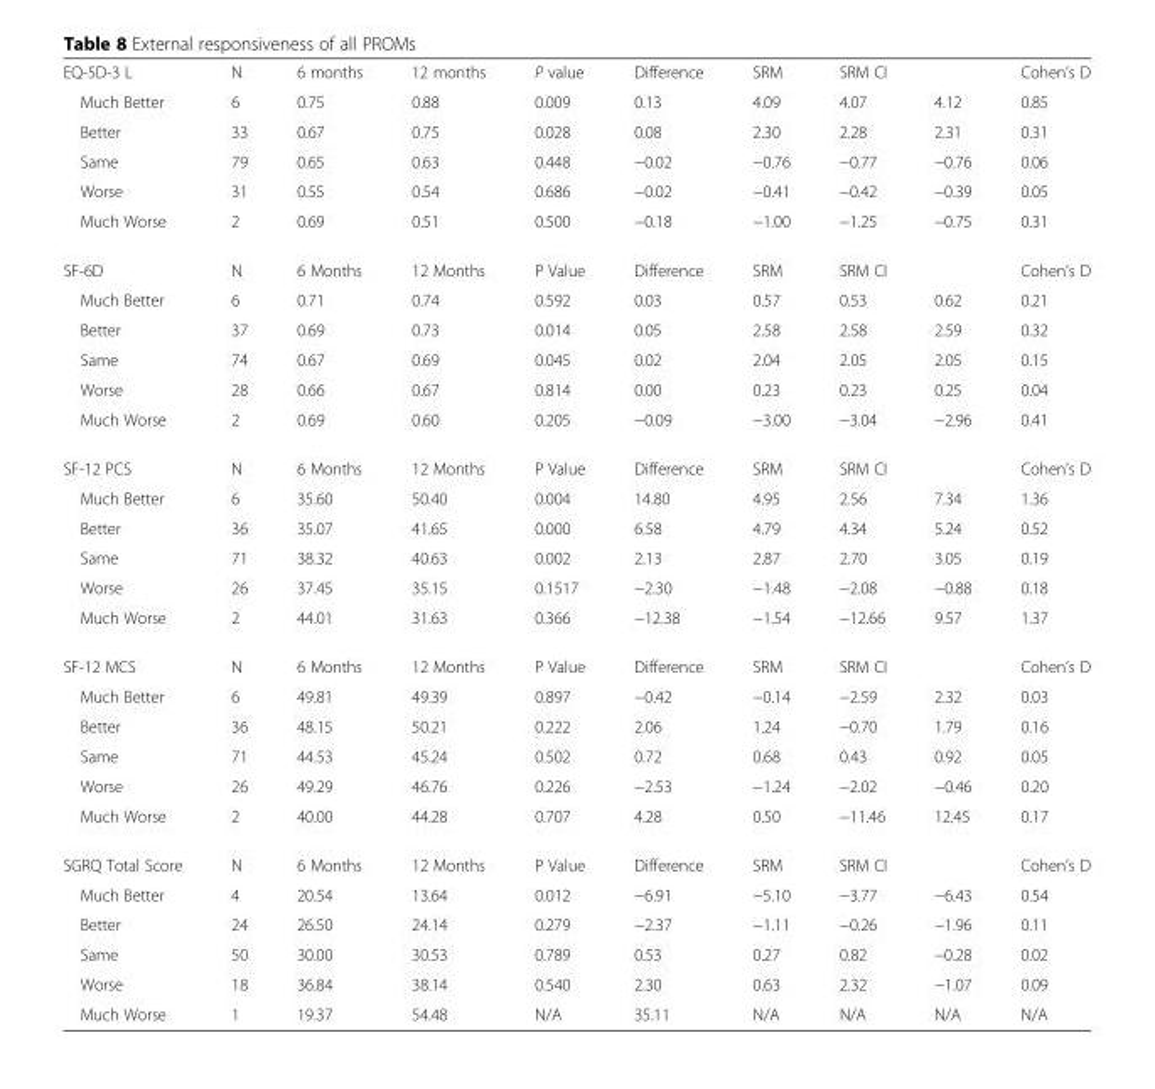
<table><tbody><tr><td>EQ-5D-3 L</td><td>N</td><td>6 months</td><td>12 months</td><td>P value</td><td>Difference</td><td>SRM</td><td colspan="2">SRM CI</td><td>Cohen’s D</td></tr><tr><td>Much Better</td><td>6</td><td>0.75</td><td>0.88</td><td>0.009</td><td>0.13</td><td>4.09</td><td>4.07</td><td>4.12</td><td>0.85</td></tr><tr><td>Better</td><td>33</td><td>0.67</td><td>0.75</td><td>0.028</td><td>0.08</td><td>2.30</td><td>2.28</td><td>2.31</td><td>0.31</td></tr><tr><td>Same</td><td>79</td><td>0.65</td><td>0.63</td><td>0.448</td><td>−0.02</td><td>−0.76</td><td>−0.77</td><td>−0.76</td><td>0.06</td></tr><tr><td>Worse</td><td>31</td><td>0.55</td><td>0.54</td><td>0.686</td><td>−0.02</td><td>−0.41</td><td>−0.42</td><td>−0.39</td><td>0.05</td></tr><tr><td>Much Worse</td><td>2</td><td>0.69</td><td>0.51</td><td>0.500</td><td>−0.18</td><td>−1.00</td><td>−1.25</td><td>−0.75</td><td>0.31</td></tr><tr><td>SF-6D</td><td>N</td><td>6 Months</td><td>12 Months</td><td>P Value</td><td>Difference</td><td>SRM</td><td colspan="2">SRM CI</td><td>Cohen’s D</td></tr><tr><td>Much Better</td><td>6</td><td>0.71</td><td>0.74</td><td>0.592</td><td>0.03</td><td>0.57</td><td>0.53</td><td>0.62</td><td>0.21</td></tr><tr><td>Better</td><td>37</td><td>0.69</td><td>0.73</td><td>0.014</td><td>0.05</td><td>2.58</td><td>2.58</td><td>2.59</td><td>0.32</td></tr><tr><td>Same</td><td>74</td><td>0.67</td><td>0.69</td><td>0.045</td><td>0.02</td><td>2.04</td><td>2.05</td><td>2.05</td><td>0.15</td></tr><tr><td>Worse</td><td>28</td><td>0.66</td><td>0.67</td><td>0.814</td><td>0.00</td><td>0.23</td><td>0.23</td><td>0.25</td><td>0.04</td></tr><tr><td>Much Worse</td><td>2</td><td>0.69</td><td>0.60</td><td>0.205</td><td>−0.09</td><td>−3.00</td><td>−3.04</td><td>−2.96</td><td>0.41</td></tr><tr><td>SF-12 PCS</td><td>N</td><td>6 Months</td><td>12 Months</td><td>P Value</td><td>Difference</td><td>SRM</td><td colspan="2">SRM CI</td><td>Cohen’s D</td></tr><tr><td>Much Better</td><td>6</td><td>35.60</td><td>50.40</td><td>0.004</td><td>14.80</td><td>4.95</td><td>2.56</td><td>7.34</td><td>1.36</td></tr><tr><td>Better</td><td>36</td><td>35.07</td><td>41.65</td><td>0.000</td><td>6.58</td><td>4.79</td><td>4.34</td><td>5.24</td><td>0.52</td></tr><tr><td>Same</td><td>71</td><td>38.32</td><td>40.63</td><td>0.002</td><td>2.13</td><td>2.87</td><td>2.70</td><td>3.05</td><td>0.19</td></tr><tr><td>Worse</td><td>26</td><td>37.45</td><td>35.15</td><td>0.1517</td><td>−2.30</td><td>−1.48</td><td>−2.08</td><td>−0.88</td><td>0.18</td></tr><tr><td>Much Worse</td><td>2</td><td>44.01</td><td>31.63</td><td>0.366</td><td>−12.38</td><td>−1.54</td><td>−12.66</td><td>9.57</td><td>1.37</td></tr><tr><td>SF-12 MCS</td><td>N</td><td>6 Months</td><td>12 Months</td><td>P Value</td><td>Difference</td><td>SRM</td><td colspan="2">SRM CI</td><td>Cohen’s D</td></tr><tr><td>Much Better</td><td>6</td><td>49.81</td><td>49.39</td><td>0.897</td><td>−0.42</td><td>−0.14</td><td>−2.59</td><td>2.32</td><td>0.03</td></tr><tr><td>Better</td><td>36</td><td>48.15</td><td>50.21</td><td>0.222</td><td>2.06</td><td>1.24</td><td>−0.70</td><td>1.79</td><td>0.16</td></tr><tr><td>Same</td><td>71</td><td>44.53</td><td>45.24</td><td>0.502</td><td>0.72</td><td>0.68</td><td>0.43</td><td>0.92</td><td>0.05</td></tr><tr><td>Worse</td><td>26</td><td>49.29</td><td>46.76</td><td>0.226</td><td>−2.53</td><td>−1.24</td><td>−2.02</td><td>−0.46</td><td>0.20</td></tr><tr><td>Much Worse</td><td>2</td><td>40.00</td><td>44.28</td><td>0.707</td><td>4.28</td><td>0.50</td><td>−11.46</td><td>12.45</td><td>0.17</td></tr><tr><td>SGRQ Total Score</td><td>N</td><td>6 Months</td><td>12 Months</td><td>P Value</td><td>Difference</td><td>SRM</td><td colspan="2">SRM CI</td><td>Cohen’s D</td></tr><tr><td>Much Better</td><td>4</td><td>20.54</td><td>13.64</td><td>0.012</td><td>−6.91</td><td>−5.10</td><td>−3.77</td><td>−6.43</td><td>0.54</td></tr><tr><td>Better</td><td>24</td><td>26.50</td><td>24.14</td><td>0.279</td><td>−2.37</td><td>−1.11</td><td>−0.26</td><td>−1.96</td><td>0.11</td></tr><tr><td>Same</td><td>50</td><td>30.00</td><td>30.53</td><td>0.789</td><td>0.53</td><td>0.27</td><td>0.82</td><td>−0.28</td><td>0.02</td></tr><tr><td>Worse</td><td>18</td><td>36.84</td><td>38.14</td><td>0.540</td><td>2.30</td><td>0.63</td><td>2.32</td><td>−1.07</td><td>0.09</td></tr><tr><td>Much Worse</td><td>1</td><td>19.37</td><td>54.48</td><td>N/A</td><td>35.11</td><td>N/A</td><td>N/A</td><td>N/A</td><td>N/A</td></tr></tbody></table>